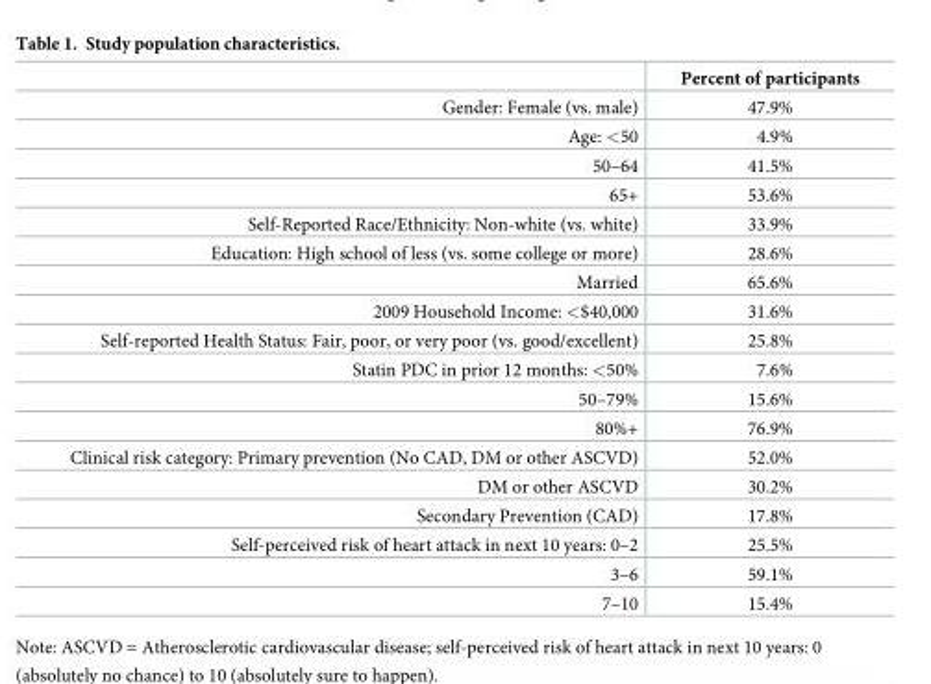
<table><thead><tr><td></td><td>Percent of participants</td></tr></thead><tbody><tr><td>Gender: Female (vs. male)</td><td>47.9%</td></tr><tr><td>Age: &lt;50</td><td>4.9%</td></tr><tr><td>50–64</td><td>41.5%</td></tr><tr><td>65+</td><td>53.6%</td></tr><tr><td>Self-Reported Race/Ethnicity: Non-white (vs. white)</td><td>33.9%</td></tr><tr><td>Education: High school of less (vs. some college or more)</td><td>28.6%</td></tr><tr><td>Married</td><td>65.6%</td></tr><tr><td>2009 Household Income: &lt;$40,000</td><td>31.6%</td></tr><tr><td>Self-reported Health Status: Fair, poor, or very poor (vs. good/excellent)</td><td>25.8%</td></tr><tr><td>Statin PDC in prior 12 months: &lt;50%</td><td>7.6%</td></tr><tr><td>50–79%</td><td>15.6%</td></tr><tr><td>80%+</td><td>76.9%</td></tr><tr><td>Clinical risk category: Primary prevention (No CAD, DM or other ASCVD)</td><td>52.0%</td></tr><tr><td>DM or other ASCVD</td><td>30.2%</td></tr><tr><td>Secondary Prevention (CAD)</td><td>17.8%</td></tr><tr><td>Self-perceived risk of heart attack in next 10 years: 0–2</td><td>25.5%</td></tr><tr><td>3–6</td><td>59.1%</td></tr><tr><td>7–10</td><td>15.4%</td></tr></tbody></table>